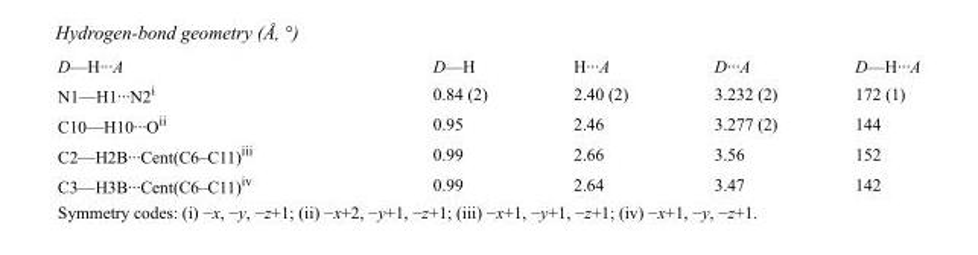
<table><tbody><tr><td>D—H···A</td><td>D—H</td><td>H···A</td><td>D···A</td><td>D—H···A</td></tr><tr><td>N1—H1···N2<sup>i</sup></td><td>0.84 (2)</td><td>2.40 (2)</td><td>3.232 (2)</td><td>172 (1)</td></tr><tr><td>C10—H10···O<sup>ii</sup></td><td>0.95</td><td>2.46</td><td>3.277 (2)</td><td>144</td></tr><tr><td>C2—H2B···Cent(C6–C11)<sup>iii</sup></td><td>0.99</td><td>2.66</td><td>3.56</td><td>152</td></tr><tr><td>C3—H3B···Cent(C6–C11)<sup>iv</sup></td><td>0.99</td><td>2.64</td><td>3.47</td><td>142</td></tr></tbody></table>